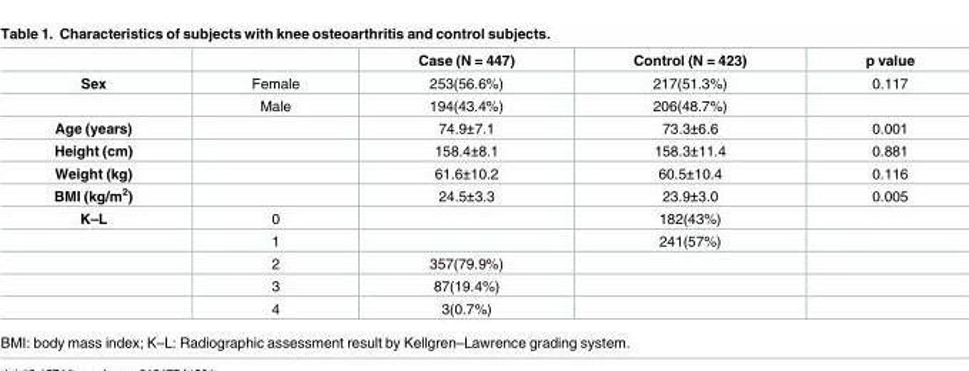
<table><thead><tr><td></td><td></td><td>Case (N = 447)</td><td>Control (N = 423)</td><td>p value</td></tr></thead><tbody><tr><td rowspan="2">Sex</td><td>Female</td><td>253(56.6%)</td><td>217(51.3%)</td><td>0.117</td></tr><tr><td>Male</td><td>194(43.4%)</td><td>206(48.7%)</td><td></td></tr><tr><td>Age (years)</td><td></td><td>74.9±7.1</td><td>73.3±6.6</td><td>0.001</td></tr><tr><td>Height (cm)</td><td></td><td>158.4±8.1</td><td>158.3±11.4</td><td>0.881</td></tr><tr><td>Weight (kg)</td><td></td><td>61.6±10.2</td><td>60.5±10.4</td><td>0.116</td></tr><tr><td>BMI (kg/m<sup>2</sup>)</td><td></td><td>24.5±3.3</td><td>23.9±3.0</td><td>0.005</td></tr><tr><td rowspan="5">K–L</td><td>0</td><td></td><td>182(43%)</td><td></td></tr><tr><td>1</td><td></td><td>241(57%)</td><td></td></tr><tr><td>2</td><td>357(79.9%)</td><td></td><td></td></tr><tr><td>3</td><td>87(19.4%)</td><td></td><td></td></tr><tr><td>4</td><td>3(0.7%)</td><td></td><td></td></tr></tbody></table>